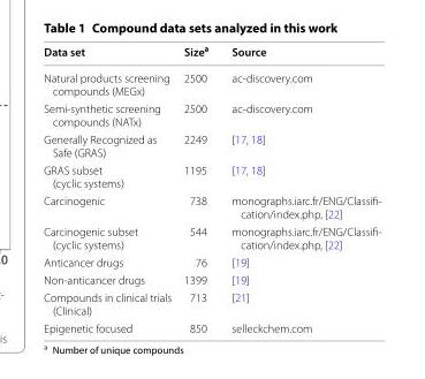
<table><thead><tr><td>Data set</td><td>Size<sup>a</sup></td><td>Source</td></tr></thead><tbody><tr><td>Natural products screening compounds (MEGx)</td><td>2500</td><td>ac‑discovery.com</td></tr><tr><td>Semi‑synthetic screening compounds (NATx)</td><td>2500</td><td>ac‑discovery.com</td></tr><tr><td>Generally Recognized as Safe (GRAS)</td><td>2249</td><td>[17, 18]</td></tr><tr><td>GRAS subset (cyclic systems)</td><td>1195</td><td>[17, 18]</td></tr><tr><td>Carcinogenic</td><td>738</td><td>monographs.iarc.fr/ENG/Classifi‑ cation/index.php, [22]</td></tr><tr><td>Carcinogenic subset (cyclic systems)</td><td>544</td><td>monographs.iarc.fr/ENG/Classifi‑ cation/index.php, [22]</td></tr><tr><td>Anticancer drugs</td><td>76</td><td>[19]</td></tr><tr><td>Non‑anticancer drugs</td><td>1399</td><td>[19]</td></tr><tr><td>Compounds in clinical trials (Clinical)</td><td>713</td><td>[21]</td></tr><tr><td>Epigenetic focused</td><td>850</td><td>selleckchem.com</td></tr></tbody></table>